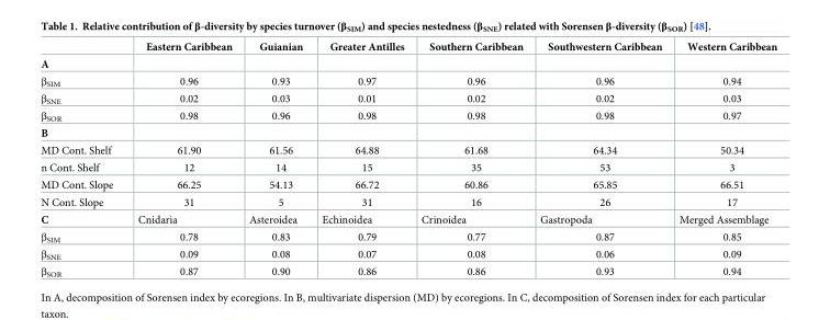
<table><thead><tr><td></td><td>Eastern Caribbean</td><td>Guianian</td><td>Greater Antilles</td><td>Southern Caribbean</td><td>Southwestern Caribbean</td><td>Western Caribbean</td></tr></thead><tbody><tr><td colspan="7">A</td></tr><tr><td>β<sub>SIM</sub></td><td>0.96</td><td>0.93</td><td>0.97</td><td>0.96</td><td>0.96</td><td>0.94</td></tr><tr><td>β<sub>SNE</sub></td><td>0.02</td><td>0.03</td><td>0.01</td><td>0.02</td><td>0.02</td><td>0.03</td></tr><tr><td>β<sub>SOR</sub></td><td>0.98</td><td>0.96</td><td>0.98</td><td>0.98</td><td>0.98</td><td>0.97</td></tr><tr><td colspan="7">B</td></tr><tr><td>MD Cont. Shelf</td><td>61.90</td><td>61.56</td><td>64.88</td><td>61.68</td><td>64.34</td><td>50.34</td></tr><tr><td>n Cont. Shelf</td><td>12</td><td>14</td><td>15</td><td>35</td><td>53</td><td>3</td></tr><tr><td>MD Cont. Slope</td><td>66.25</td><td>54.13</td><td>66.72</td><td>60.86</td><td>65.85</td><td>66.51</td></tr><tr><td>N Cont. Slope</td><td>31</td><td>5</td><td>31</td><td>16</td><td>26</td><td>17</td></tr><tr><td>C</td><td>Cnidaria</td><td>Asteroidea</td><td>Echinoidea</td><td>Crinoidea</td><td>Gastropoda</td><td>Merged Assemblage</td></tr><tr><td>β<sub>SIM</sub></td><td>0.78</td><td>0.83</td><td>0.79</td><td>0.77</td><td>0.87</td><td>0.85</td></tr><tr><td>β<sub>SNE</sub></td><td>0.09</td><td>0.08</td><td>0.07</td><td>0.08</td><td>0.06</td><td>0.09</td></tr><tr><td>β<sub>SOR</sub></td><td>0.87</td><td>0.90</td><td>0.86</td><td>0.86</td><td>0.93</td><td>0.94</td></tr></tbody></table>